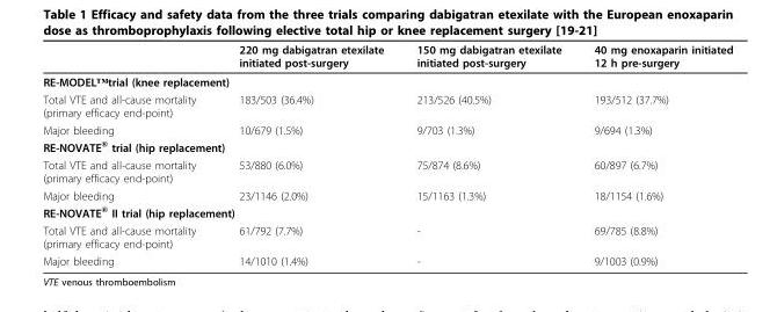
<table><thead><tr><td></td><td>220 mg dabigatran etexilate initiated post-surgery</td><td>150 mg dabigatran etexilate initiated post-surgery</td><td>40 mg enoxaparin initiated 12 h pre-surgery</td></tr></thead><tbody><tr><td colspan="4">RE-MODEL™trial (knee replacement)</td></tr><tr><td>Total VTE and all-cause mortality (primary efficacy end-point)</td><td>183/503 (36.4%)</td><td>213/526 (40.5%)</td><td>193/512 (37.7%)</td></tr><tr><td>Major bleeding</td><td>10/679 (1.5%)</td><td>9/703 (1.3%)</td><td>9/694 (1.3%)</td></tr><tr><td colspan="4">RE-NOVATE<sup>®</sup> trial (hip replacement)</td></tr><tr><td>Total VTE and all-cause mortality (primary efficacy end-point)</td><td>53/880 (6.0%)</td><td>75/874 (8.6%)</td><td>60/897 (6.7%)</td></tr><tr><td>Major bleeding</td><td>23/1146 (2.0%)</td><td>15/1163 (1.3%)</td><td>18/1154 (1.6%)</td></tr><tr><td colspan="4">RE-NOVATE<sup>®</sup> II trial (hip replacement)</td></tr><tr><td>Total VTE and all-cause mortality (primary efficacy end-point)</td><td>61/792 (7.7%)</td><td>-</td><td>69/785 (8.8%)</td></tr><tr><td>Major bleeding</td><td>14/1010 (1.4%)</td><td>-</td><td>9/1003 (0.9%)</td></tr></tbody></table>